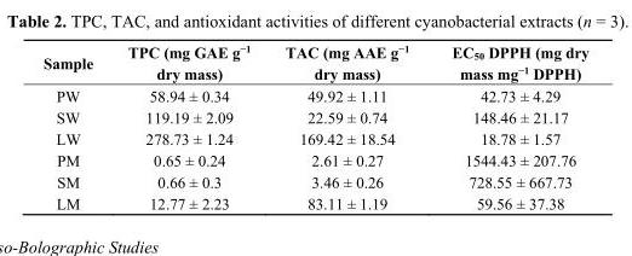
<table><thead><tr><td>Sample</td><td>TPC (mg GAE g<sup>−1</sup> dry mass)</td><td>TAC (mg AAE g<sup>−1</sup> dry mass)</td><td>EC<sub>50</sub> DPPH (mg dry mass mg<sup>−1</sup> DPPH)</td></tr></thead><tbody><tr><td>PW</td><td>58.94 ± 0.34</td><td>49.92 ± 1.11</td><td>42.73 ± 4.29</td></tr><tr><td>SW</td><td>119.19 ± 2.09</td><td>22.59 ± 0.74</td><td>148.46 ± 21.17</td></tr><tr><td>LW</td><td>278.73 ± 1.24</td><td>169.42 ± 18.54</td><td>18.78 ± 1.57</td></tr><tr><td>PM</td><td>0.65 ± 0.24</td><td>2.61 ± 0.27</td><td>1544.43 ± 207.76</td></tr><tr><td>SM</td><td>0.66 ± 0.3</td><td>3.46 ± 0.26</td><td>728.55 ± 667.73</td></tr><tr><td>LM</td><td>12.77 ± 2.23</td><td>83.11 ± 1.19</td><td>59.56 ± 37.38</td></tr></tbody></table>